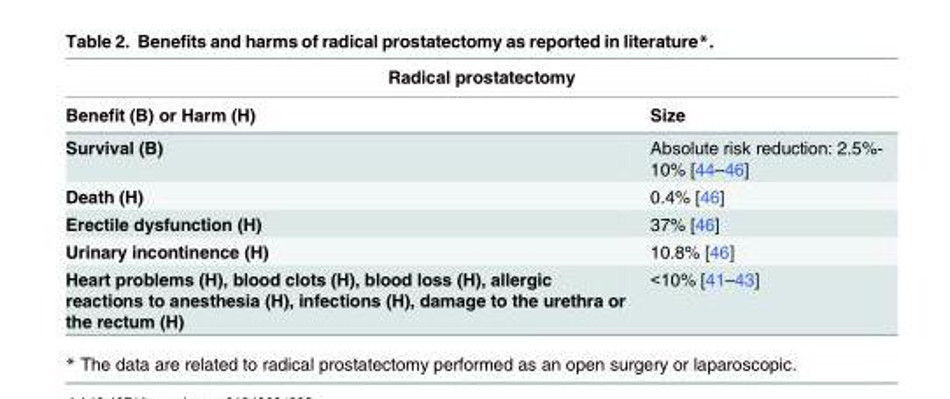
<table><thead><tr><td colspan="2">Radical prostatectomy</td></tr><tr><td>Benefit (B) or Harm (H)</td><td>Size</td></tr></thead><tbody><tr><td>Survival (B)</td><td>Absolute risk reduction: 2.5%- 10% [44–46]</td></tr><tr><td>Death (H)</td><td>0.4% [46]</td></tr><tr><td>Erectile dysfunction (H)</td><td>37% [46]</td></tr><tr><td>Urinary incontinence (H)</td><td>10.8% [46]</td></tr><tr><td>Heart problems (H), blood clots (H), blood loss (H), allergic reactions to anesthesia (H), infections (H), damage to the urethra or the rectum (H)</td><td>&lt;10% [41–43]</td></tr></tbody></table>